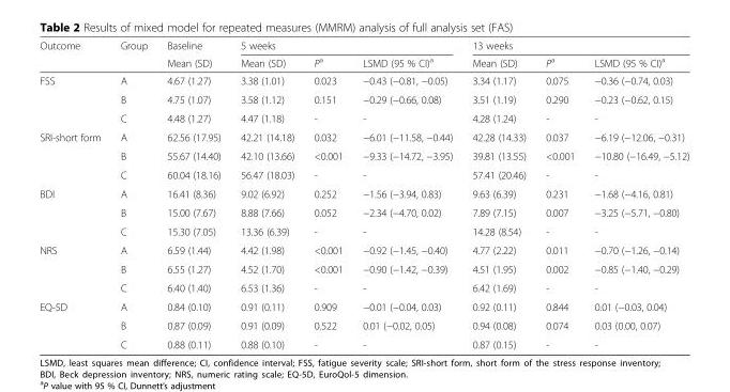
<table><thead><tr><td rowspan="2">Outcome</td><td rowspan="2">Group</td><td rowspan="2">Baseline Mean (SD)</td><td colspan="3">5 weeks</td><td colspan="3">13 weeks</td></tr><tr><td>Mean (SD)</td><td>P<sup>a</sup></td><td>LSMD (95 % CI)<sup>a</sup></td><td>Mean (SD)</td><td>P<sup>a</sup></td><td>LSMD (95 % CI)<sup>a</sup></td></tr></thead><tbody><tr><td rowspan="3">FSS</td><td>A</td><td>4.67 (1.27)</td><td>3.38 (1.01)</td><td>0.023</td><td>−0.43 (−0.81, −0.05)</td><td>3.34 (1.17)</td><td>0.075</td><td>−0.36 (−0.74, 0.03)</td></tr><tr><td>B</td><td>4.75 (1.07)</td><td>3.58 (1.12)</td><td>0.151</td><td>−0.29 (−0.66, 0.08)</td><td>3.51 (1.19)</td><td>0.290</td><td>−0.23 (−0.62, 0.15)</td></tr><tr><td>C</td><td>4.48 (1.27)</td><td>4.47 (1.18)</td><td>-</td><td>-</td><td>4.28 (1.24)</td><td>-</td><td>-</td></tr><tr><td rowspan="3">SRI-short form</td><td>A</td><td>62.56 (17.95)</td><td>42.21 (14.18)</td><td>0.032</td><td>−6.01 (−11.58, −0.44)</td><td>42.28 (14.33)</td><td>0.037</td><td>−6.19 (−12.06, −0.31)</td></tr><tr><td>B</td><td>55.67 (14.40)</td><td>42.10 (13.66)</td><td>&lt;0.001</td><td>−9.33 (−14.72, −3.95)</td><td>39.81 (13.55)</td><td>&lt;0.001</td><td>−10.80 (−16.49, −5.12)</td></tr><tr><td>C</td><td>60.04 (18.16)</td><td>56.47 (18.03)</td><td>-</td><td>-</td><td>57.41 (20.46)</td><td>-</td><td>-</td></tr><tr><td rowspan="3">BDI</td><td>A</td><td>16.41 (8.36)</td><td>9.02 (6.92)</td><td>0.252</td><td>−1.56 (−3.94, 0.83)</td><td>9.63 (6.39)</td><td>0.231</td><td>−1.68 (−4.16, 0.81)</td></tr><tr><td>B</td><td>15.00 (7.67)</td><td>8.88 (7.66)</td><td>0.052</td><td>−2.34 (−4.70, 0.02)</td><td>7.89 (7.15)</td><td>0.007</td><td>−3.25 (−5.71, −0.80)</td></tr><tr><td>C</td><td>15.30 (7.05)</td><td>13.36 (6.39)</td><td>-</td><td>-</td><td>14.28 (8.54)</td><td>-</td><td>-</td></tr><tr><td rowspan="3">NRS</td><td>A</td><td>6.59 (1.44)</td><td>4.42 (1.98)</td><td>&lt;0.001</td><td>−0.92 (−1.45, −0.40)</td><td>4.77 (2.22)</td><td>0.011</td><td>−0.70 (−1.26, −0.14)</td></tr><tr><td>B</td><td>6.55 (1.27)</td><td>4.52 (1.70)</td><td>&lt;0.001</td><td>−0.90 (−1.42, −0.39)</td><td>4.51 (1.95)</td><td>0.002</td><td>−0.85 (−1.40, −0.29)</td></tr><tr><td>C</td><td>6.40 (1.40)</td><td>6.53 (1.36)</td><td>-</td><td>-</td><td>6.42 (1.69)</td><td>-</td><td>-</td></tr><tr><td rowspan="3">EQ-5D</td><td>A</td><td>0.84 (0.10)</td><td>0.91 (0.11)</td><td>0.909</td><td>−0.01 (−0.04, 0.03)</td><td>0.92 (0.11)</td><td>0.844</td><td>0.01 (−0.03, 0.04)</td></tr><tr><td>B</td><td>0.87 (0.09)</td><td>0.91 (0.09)</td><td>0.522</td><td>0.01 (−0.02, 0.05)</td><td>0.94 (0.08)</td><td>0.074</td><td>0.03 (0.00, 0.07)</td></tr><tr><td>C</td><td>0.88 (0.11)</td><td>0.88 (0.10)</td><td>-</td><td>-</td><td>0.87 (0.15)</td><td>-</td><td>-</td></tr></tbody></table>